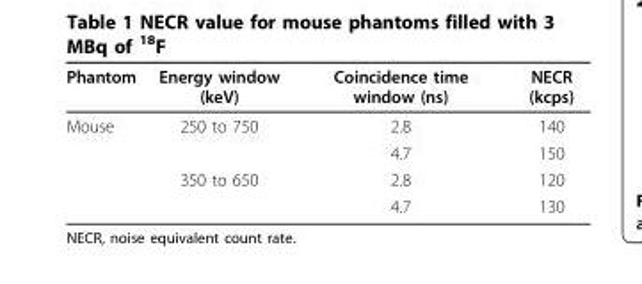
<table><thead><tr><td>Phantom</td><td>Energy window (keV)</td><td>Coincidence time window (ns)</td><td>NECR (kcps)</td></tr></thead><tbody><tr><td rowspan="4">Mouse</td><td>250 to 750</td><td>2.8</td><td>140</td></tr><tr><td></td><td>4.7</td><td>150</td></tr><tr><td>350 to 650</td><td>2.8</td><td>120</td></tr><tr><td></td><td>4.7</td><td>130</td></tr></tbody></table>